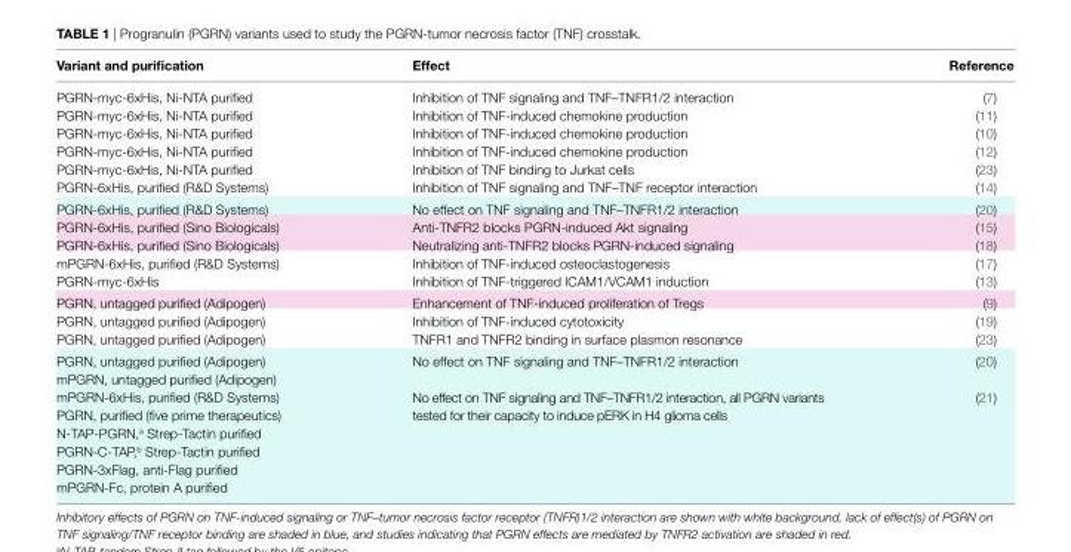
<table><thead><tr><td>Variant and purification</td><td>effect</td><td>reference</td></tr></thead><tbody><tr><td>PGRN-myc-6xHis, Ni-NTA purified</td><td>Inhibition of TNF signaling and TNF–TNFR1/2 interaction</td><td>(7)</td></tr><tr><td>PGRN-myc-6xHis, Ni-NTA purified</td><td>Inhibition of TNF-induced chemokine production</td><td>(11)</td></tr><tr><td>PGRN-myc-6xHis, Ni-NTA purified</td><td>Inhibition of TNF-induced chemokine production</td><td>(10)</td></tr><tr><td>PGRN-myc-6xHis, Ni-NTA purified</td><td>Inhibition of TNF-induced chemokine production</td><td>(12)</td></tr><tr><td>PGRN-myc-6xHis, Ni-NTA purified</td><td>Inhibition of TNF binding to Jurkat cells</td><td>(23)</td></tr><tr><td>PGRN-6xHis, purified (R&amp;D Systems)</td><td>Inhibition of TNF signaling and TNF–TNF receptor interaction</td><td>(14)</td></tr><tr><td>PGRN-6xHis, purified (R&amp;D Systems)</td><td>No effect on TNF signaling and TNF–TNFR1/2 interaction</td><td>(20)</td></tr><tr><td>PGRN-6xHis, purified (Sino Biologicals)</td><td>Anti-TNFR2 blocks PGRN-induced Akt signaling</td><td>(15)</td></tr><tr><td>PGRN-6xHis, purified (Sino Biologicals)</td><td>Neutralizing anti-TNFR2 blocks PGRN-induced signaling</td><td>(18)</td></tr><tr><td>mPGRN-6xHis, purified (R&amp;D Systems)</td><td>Inhibition of TNF-induced osteoclastogenesis</td><td>(17)</td></tr><tr><td>PGRN-myc-6xHis</td><td>Inhibition of TNF-triggered ICAM1/VCAM1 induction</td><td>(13)</td></tr><tr><td>PGRN, untagged purified (Adipogen)</td><td>Enhancement of TNF-induced proliferation of Tregs</td><td>(9)</td></tr><tr><td>PGRN, untagged purified (Adipogen)</td><td>Inhibition of TNF-induced cytotoxicity</td><td>(19)</td></tr><tr><td>PGRN, untagged purified (Adipogen)</td><td>TNFR1 and TNFR2 binding in surface plasmon resonance</td><td>(23)</td></tr><tr><td>PGRN, untagged purified (Adipogen) mPGRN, untagged purified (Adipogen)</td><td>No effect on TNF signaling and TNF–TNFR1/2 interaction</td><td>(20)</td></tr><tr><td>mPGRN-6xHis, purified (R&amp;D Systems) PGRN, purified (five prime therapeutics) N-TAP-PGRN,<sup>a</sup> Strep-Tactin purified PGRN-C-TAP,<sup>b</sup> Strep-Tactin purified PGRN-3xFlag, anti-Flag purified mPGRN-Fc, protein A purified</td><td>No effect on TNF signaling and TNF–TNFR1/2 interaction, all PGRN variants tested for their capacity to induce pERK in H4 glioma cells</td><td>(21)</td></tr></tbody></table>